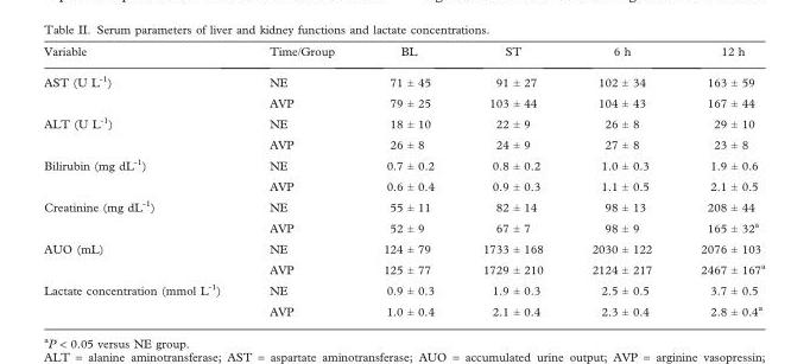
<table><thead><tr><td>Variable</td><td>Time/Group</td><td>BL</td><td>ST</td><td>6 h</td><td>12 h</td></tr></thead><tbody><tr><td rowspan="2">AST (U L<sup>-1</sup>)</td><td>NE</td><td>71 ± 45</td><td>91 ± 27</td><td>102 ± 34</td><td>163 ± 59</td></tr><tr><td>AVP</td><td>79 ± 25</td><td>103 ± 44</td><td>104 ± 43</td><td>167 ± 44</td></tr><tr><td rowspan="2">ALT (U L<sup>-1</sup>)</td><td>NE</td><td>18 ± 10</td><td>22 ± 9</td><td>26 ± 8</td><td>29 ± 10</td></tr><tr><td>AVP</td><td>26 ± 8</td><td>24 ± 9</td><td>27 ± 8</td><td>23 ± 8</td></tr><tr><td rowspan="2">Bilirubin (mg dL<sup>-1</sup>)</td><td>NE</td><td>0.7 ± 0.2</td><td>0.8 ± 0.2</td><td>1.0 ± 0.3</td><td>1.9 ± 0.6</td></tr><tr><td>AVP</td><td>0.6 ± 0.4</td><td>0.9 ± 0.3</td><td>1.1 ± 0.5</td><td>2.1 ± 0.5</td></tr><tr><td rowspan="2">Creatinine (mg dL<sup>-1</sup>)</td><td>NE</td><td>55 ± 11</td><td>82 ± 14</td><td>98 ± 13</td><td>208 ± 44</td></tr><tr><td>AVP</td><td>52 ± 9</td><td>67 ± 7</td><td>98 ± 9</td><td>165 ± 32<sup>a</sup></td></tr><tr><td rowspan="2">AUO (mL)</td><td>NE</td><td>124 ± 79</td><td>1733 ± 168</td><td>2030 ± 122</td><td>2076 ± 103</td></tr><tr><td>AVP</td><td>125 ± 77</td><td>1729 ± 210</td><td>2124 ± 217</td><td>2467 ± 167<sup>a</sup></td></tr><tr><td rowspan="2">Lactate concentration (mmol L<sup>-1</sup>)</td><td>NE</td><td>0.9 ± 0.3</td><td>1.9 ± 0.3</td><td>2.5 ± 0.5</td><td>3.7 ± 0.5</td></tr><tr><td>AVP</td><td>1.0 ± 0.4</td><td>2.1 ± 0.4</td><td>2.3 ± 0.4</td><td>2.8 ± 0.4<sup>a</sup></td></tr></tbody></table>